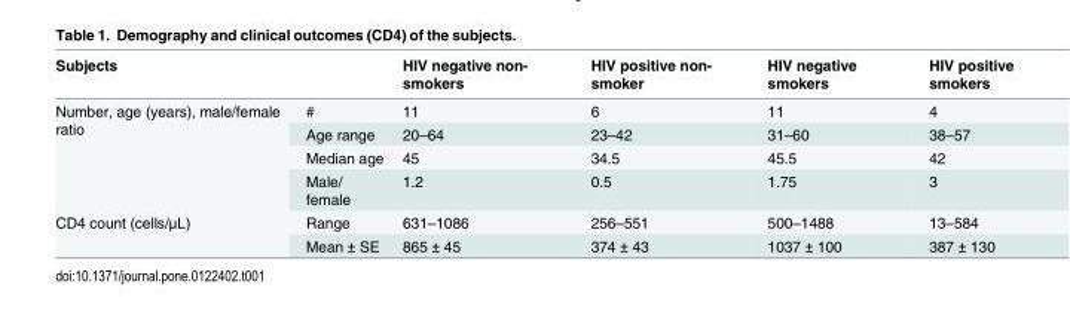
<table><thead><tr><td>Subjects</td><td></td><td>HIV negative non- smokers</td><td>HIV positive non- smoker</td><td>HIV negative smokers</td><td>HIV positive smokers</td></tr></thead><tbody><tr><td rowspan="4">Number, age (years), male/female ratio</td><td>#</td><td>11</td><td>6</td><td>11</td><td>4</td></tr><tr><td>Age range</td><td>20–64</td><td>23–42</td><td>31–60</td><td>38–57</td></tr><tr><td>Median age</td><td>45</td><td>34.5</td><td>45.5</td><td>42</td></tr><tr><td>Male/ female</td><td>1.2</td><td>0.5</td><td>1.75</td><td>3</td></tr><tr><td rowspan="2">CD4 count (cells/μL)</td><td>Range</td><td>631–1086</td><td>256–551</td><td>500–1488</td><td>13–584</td></tr><tr><td>Mean ± SE</td><td>865 ± 45</td><td>374 ± 43</td><td>1037 ± 100</td><td>387 ± 130</td></tr></tbody></table>